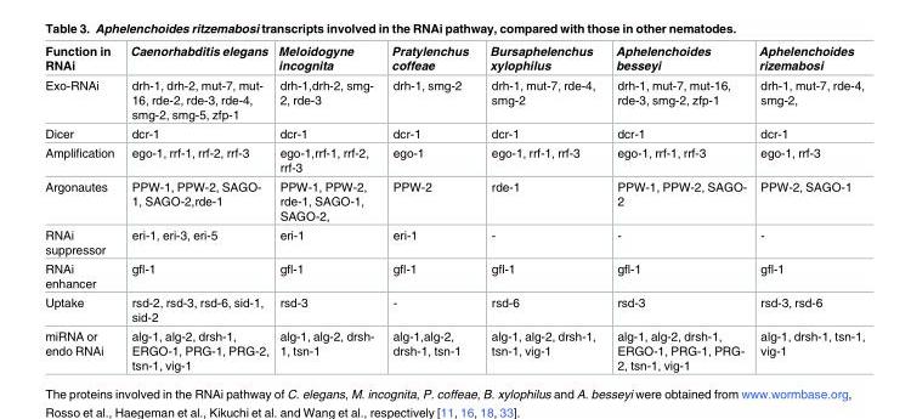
<table><thead><tr><td>Function in RNAi</td><td>Caenorhabditis elegans</td><td>Meloidogyne incognita</td><td>Pratylenchus coffeae</td><td>Bursaphelenchus xylophilus</td><td>Aphelenchoides besseyi</td><td>Aphelenchoides rizemabosi</td></tr></thead><tbody><tr><td>Exo-RNAi</td><td>drh-1, drh-2, mut-7, mut- 16, rde-2, rde-3, rde-4, smg-2, smg-5, zfp-1</td><td>drh-1,drh-2, smg- 2, rde-3</td><td>drh-1, smg-2</td><td>drh-1, mut-7, rde-4, smg-2</td><td>drh-1, mut-7, mut-16, rde-3, smg-2, zfp-1</td><td>drh-1, mut-7, rde-4, smg-2,</td></tr><tr><td>Dicer</td><td>dcr-1</td><td>dcr-1</td><td>dcr-1</td><td>dcr-1</td><td>dcr-1</td><td>dcr-1</td></tr><tr><td>Amplification</td><td>ego-1, rrf-1, rrf-2, rrf-3</td><td>ego-1,rrf-1, rrf-2, rrf-3</td><td>ego-1</td><td>ego-1, rrf-1, rrf-3</td><td>ego-1, rrf-1, rrf-3</td><td>ego-1, rrf-3</td></tr><tr><td>Argonautes</td><td>PPW-1, PPW-2, SAGO- 1, SAGO-2,rde-1</td><td>PPW-1, PPW-2, rde-1, SAGO-1, SAGO-2,</td><td>PPW-2</td><td>rde-1</td><td>PPW-1, PPW-2, SAGO- 2</td><td>PPW-2, SAGO-1</td></tr><tr><td>RNAi suppressor</td><td>eri-1, eri-3, eri-5</td><td>eri-1</td><td>eri-1</td><td>-</td><td>-</td><td>-</td></tr><tr><td>RNAi enhancer</td><td>gfl-1</td><td>gfl-1</td><td>gfl-1</td><td>gfl-1</td><td>gfl-1</td><td>gfl-1</td></tr><tr><td>Uptake</td><td>rsd-2, rsd-3, rsd-6, sid-1, sid-2</td><td>rsd-3</td><td>-</td><td>rsd-6</td><td>rsd-3</td><td>rsd-3, rsd-6</td></tr><tr><td>miRNA or endo RNAi</td><td>alg-1, alg-2, drsh-1, ERGO-1, PRG-1, PRG-2, tsn-1, vig-1</td><td>alg-1, alg-2, drsh- 1, tsn-1</td><td>alg-1,alg-2, drsh-1, tsn-1</td><td>alg-1, alg-2, drsh-1, tsn-1, vig-1</td><td>alg-1, alg-2, drsh-1, ERGO-1, PRG-1, PRG- 2, tsn-1, vig-1</td><td>alg-1, drsh-1, tsn-1, vig-1</td></tr></tbody></table>